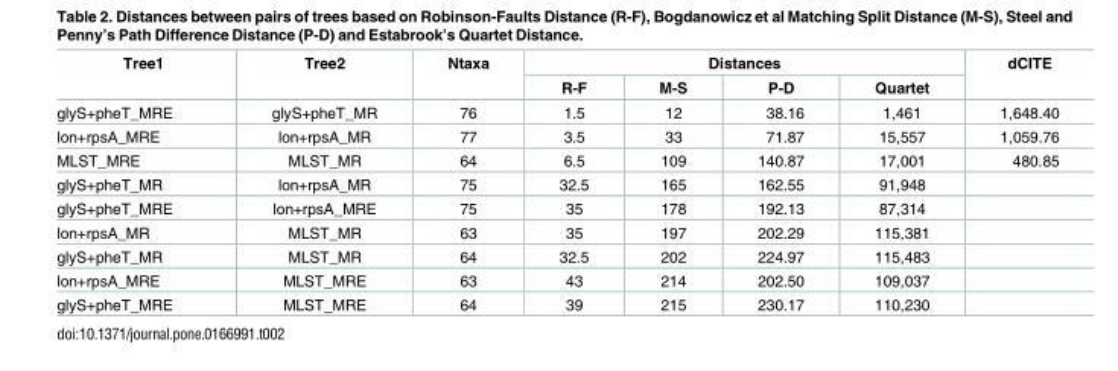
<table><thead><tr><td rowspan="2">Tree1</td><td rowspan="2">Tree2</td><td rowspan="2">Ntaxa</td><td colspan="4">Distances</td><td rowspan="2">dCITE</td></tr><tr><td>R-F</td><td>M-S</td><td>P-D</td><td>Quartet</td></tr></thead><tbody><tr><td>glyS+pheT_MRE</td><td>glyS+pheT_MR</td><td>76</td><td>1.5</td><td>12</td><td>38.16</td><td>1,461</td><td>1,648.40</td></tr><tr><td>lon+rpsA_MRE</td><td>lon+rpsA_MR</td><td>77</td><td>3.5</td><td>33</td><td>71.87</td><td>15,557</td><td>1,059.76</td></tr><tr><td>MLST_MRE</td><td>MLST_MR</td><td>64</td><td>6.5</td><td>109</td><td>140.87</td><td>17,001</td><td>480.85</td></tr><tr><td>glyS+pheT_MR</td><td>lon+rpsA_MR</td><td>75</td><td>32.5</td><td>165</td><td>162.55</td><td>91,948</td><td></td></tr><tr><td>glyS+pheT_MRE</td><td>lon+rpsA_MRE</td><td>75</td><td>35</td><td>178</td><td>192.13</td><td>87,314</td><td></td></tr><tr><td>lon+rpsA_MR</td><td>MLST_MR</td><td>63</td><td>35</td><td>197</td><td>202.29</td><td>115,381</td><td></td></tr><tr><td>glyS+pheT_MR</td><td>MLST_MR</td><td>64</td><td>32.5</td><td>202</td><td>224.97</td><td>115,483</td><td></td></tr><tr><td>lon+rpsA_MRE</td><td>MLST_MRE</td><td>63</td><td>43</td><td>214</td><td>202.50</td><td>109,037</td><td></td></tr><tr><td>glyS+pheT_MRE</td><td>MLST_MRE</td><td>64</td><td>39</td><td>215</td><td>230.17</td><td>110,230</td><td></td></tr></tbody></table>